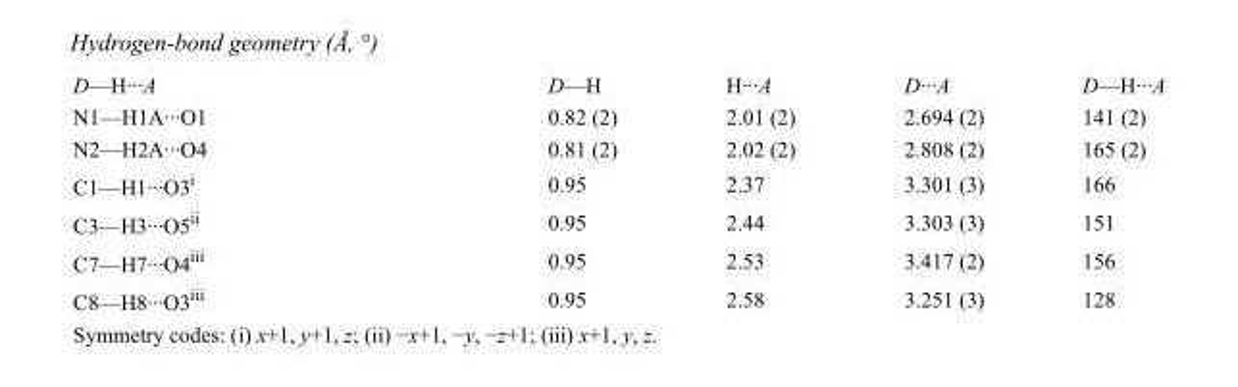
<table><tbody><tr><td>D—H···A</td><td>D—H</td><td>H···A</td><td>D···A</td><td>D—H···A</td></tr><tr><td>N1—H1A···O1</td><td>0.82 (2)</td><td>2.01 (2)</td><td>2.694 (2)</td><td>141 (2)</td></tr><tr><td>N2—H2A···O4</td><td>0.81 (2)</td><td>2.02 (2)</td><td>2.808 (2)</td><td>165 (2)</td></tr><tr><td>C1—H1···O3<sup>i</sup></td><td>0.95</td><td>2.37</td><td>3.301 (3)</td><td>166</td></tr><tr><td>C3—H3···O5<sup>ii</sup></td><td>0.95</td><td>2.44</td><td>3.303 (3)</td><td>151</td></tr><tr><td>C7—H7···O4<sup>iii</sup></td><td>0.95</td><td>2.53</td><td>3.417 (2)</td><td>156</td></tr><tr><td>C8—H8···O3<sup>iii</sup></td><td>0.95</td><td>2.58</td><td>3.251 (3)</td><td>128</td></tr></tbody></table>